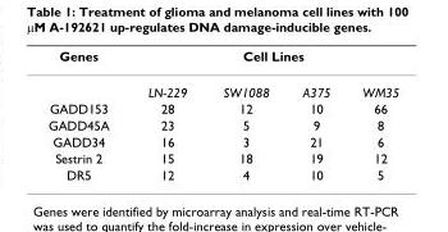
<table><thead><tr><td rowspan="2">Genes</td><td colspan="4">Cell Lines</td></tr><tr><td>LN-229</td><td>SW1088</td><td>A375</td><td>WM35</td></tr></thead><tbody><tr><td>GADD153</td><td>28</td><td>12</td><td>10</td><td>66</td></tr><tr><td>GADD45A</td><td>23</td><td>5</td><td>9</td><td>8</td></tr><tr><td>GADD34</td><td>16</td><td>3</td><td>21</td><td>6</td></tr><tr><td>Sestrin 2</td><td>15</td><td>18</td><td>19</td><td>12</td></tr><tr><td>DR5</td><td>12</td><td>4</td><td>10</td><td>5</td></tr></tbody></table>